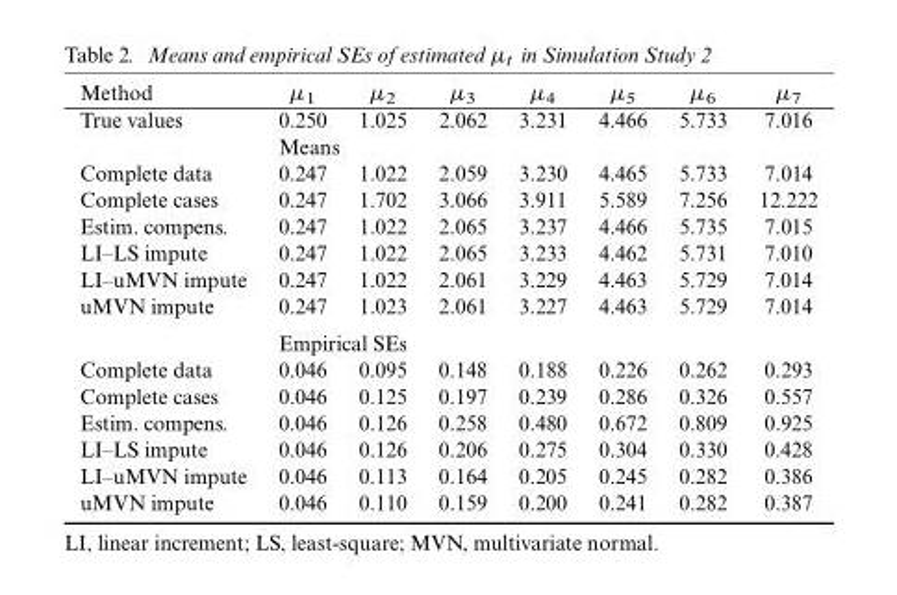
<table><thead><tr><td>Method</td><td>μ<sub>1</sub></td><td>μ<sub>2</sub></td><td>μ<sub>3</sub></td><td>μ<sub>4</sub></td><td>μ<sub>5</sub></td><td>μ<sub>6</sub></td><td>μ<sub>7</sub></td></tr></thead><tbody><tr><td rowspan="2">True values</td><td>0.250</td><td>1.025</td><td>2.062</td><td>3.231</td><td>4.466</td><td>5.733</td><td>7.016</td></tr><tr><td colspan="7">Means</td></tr><tr><td>Complete data</td><td>0.247</td><td>1.022</td><td>2.059</td><td>3.230</td><td>4.465</td><td>5.733</td><td>7.014</td></tr><tr><td>Complete cases</td><td>0.247</td><td>1.702</td><td>3.066</td><td>3.911</td><td>5.589</td><td>7.256</td><td>12.222</td></tr><tr><td>Estim. compens.</td><td>0.247</td><td>1.022</td><td>2.065</td><td>3.237</td><td>4.466</td><td>5.735</td><td>7.015</td></tr><tr><td>LI–LS impute</td><td>0.247</td><td>1.022</td><td>2.065</td><td>3.233</td><td>4.462</td><td>5.731</td><td>7.010</td></tr><tr><td>LI–uMVN impute</td><td>0.247</td><td>1.022</td><td>2.061</td><td>3.229</td><td>4.463</td><td>5.729</td><td>7.014</td></tr><tr><td rowspan="2">uMVN impute</td><td>0.247</td><td>1.023</td><td>2.061</td><td>3.227</td><td>4.463</td><td>5.729</td><td>7.014</td></tr><tr><td colspan="7">Empirical SEs</td></tr><tr><td>Complete data</td><td>0.046</td><td>0.095</td><td>0.148</td><td>0.188</td><td>0.226</td><td>0.262</td><td>0.293</td></tr><tr><td>Complete cases</td><td>0.046</td><td>0.125</td><td>0.197</td><td>0.239</td><td>0.286</td><td>0.326</td><td>0.557</td></tr><tr><td>Estim. compens.</td><td>0.046</td><td>0.126</td><td>0.258</td><td>0.480</td><td>0.672</td><td>0.809</td><td>0.925</td></tr><tr><td>LI–LS impute</td><td>0.046</td><td>0.126</td><td>0.206</td><td>0.275</td><td>0.304</td><td>0.330</td><td>0.428</td></tr><tr><td>LI–uMVN impute</td><td>0.046</td><td>0.113</td><td>0.164</td><td>0.205</td><td>0.245</td><td>0.282</td><td>0.386</td></tr><tr><td>uMVN impute</td><td>0.046</td><td>0.110</td><td>0.159</td><td>0.200</td><td>0.241</td><td>0.282</td><td>0.387</td></tr></tbody></table>